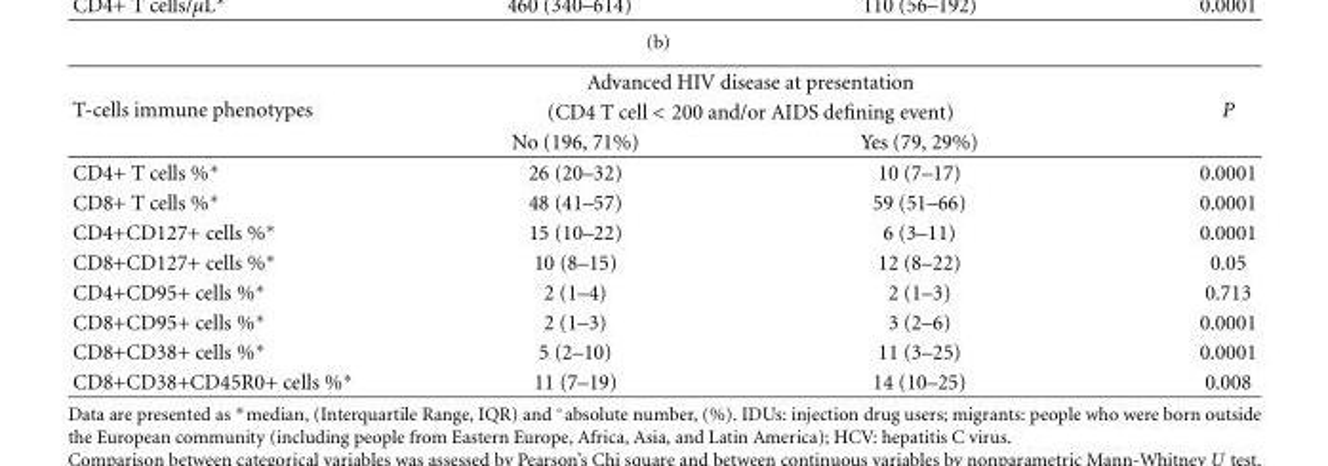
<table><tbody><tr><td rowspan="3">T-cells immune phenotypes</td><td colspan="2">Advanced HIV disease at presentation</td><td rowspan="3">P</td></tr><tr><td colspan="2">(CD4 T cell &lt; 200 and/or AIDS defining event)</td></tr><tr><td>No (196, 71%)</td><td>Yes (79, 29%)</td></tr><tr><td>CD4+ T cells %∗</td><td>26 (20–32)</td><td>10 (7–17)</td><td>0.0001</td></tr><tr><td>CD8+ T cells %∗</td><td>48 (41–57)</td><td>59 (51–66)</td><td>0.0001</td></tr><tr><td>CD4+CD127+ cells %∗</td><td>15 (10–22)</td><td>6 (3–11)</td><td>0.0001</td></tr><tr><td>CD8+CD127+ cells %∗</td><td>10 (8–15)</td><td>12 (8–22)</td><td>0.05</td></tr><tr><td>CD4+CD95+ cells %∗</td><td>2 (1–4)</td><td>2 (1–3)</td><td>0.713</td></tr><tr><td>CD8+CD95+ cells %∗</td><td>2 (1–3)</td><td>3 (2–6)</td><td>0.0001</td></tr><tr><td>CD8+CD38+ cells %∗</td><td>5 (2–10)</td><td>11 (3–25)</td><td>0.0001</td></tr><tr><td>CD8+CD38+CD45R0+ cells %∗</td><td>11 (7–19)</td><td>14 (10–25)</td><td>0.008</td></tr></tbody></table>